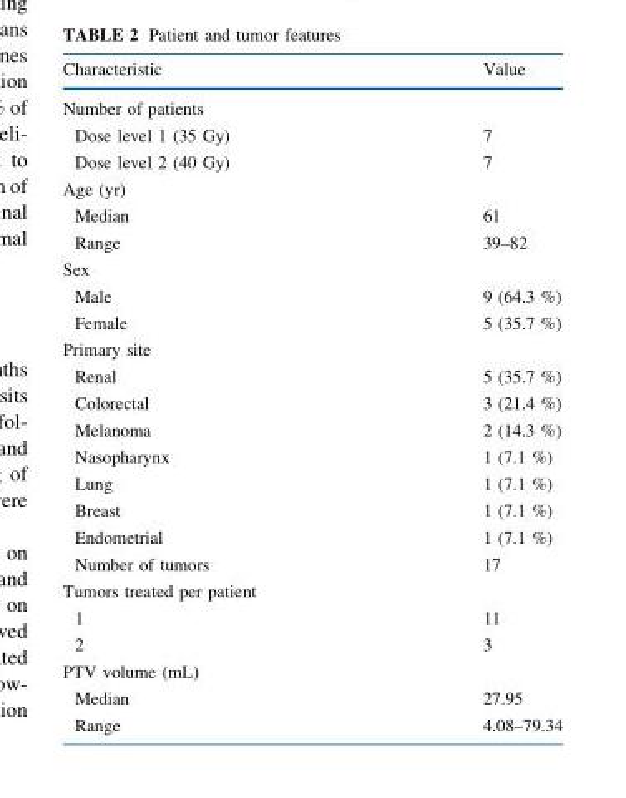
<table><thead><tr><td>Characteristic</td><td>Value</td></tr></thead><tbody><tr><td colspan="2">Number of patients</td></tr><tr><td>Dose level 1 (35 Gy)</td><td>7</td></tr><tr><td>Dose level 2 (40 Gy)</td><td>7</td></tr><tr><td colspan="2">Age (yr)</td></tr><tr><td>Median</td><td>61</td></tr><tr><td>Range</td><td>39–82</td></tr><tr><td colspan="2">Sex</td></tr><tr><td>Male</td><td>9 (64.3 %)</td></tr><tr><td>Female</td><td>5 (35.7 %)</td></tr><tr><td colspan="2">Primary site</td></tr><tr><td>Renal</td><td>5 (35.7 %)</td></tr><tr><td>Colorectal</td><td>3 (21.4 %)</td></tr><tr><td>Melanoma</td><td>2 (14.3 %)</td></tr><tr><td>Nasopharynx</td><td>1 (7.1 %)</td></tr><tr><td>Lung</td><td>1 (7.1 %)</td></tr><tr><td>Breast</td><td>1 (7.1 %)</td></tr><tr><td>Endometrial</td><td>1 (7.1 %)</td></tr><tr><td>Number of tumors</td><td>17</td></tr><tr><td colspan="2">Tumors treated per patient</td></tr><tr><td>1</td><td>11</td></tr><tr><td>2</td><td>3</td></tr><tr><td colspan="2">PTV volume (mL)</td></tr><tr><td>Median</td><td>27.95</td></tr><tr><td>Range</td><td>4.08–79.34</td></tr></tbody></table>